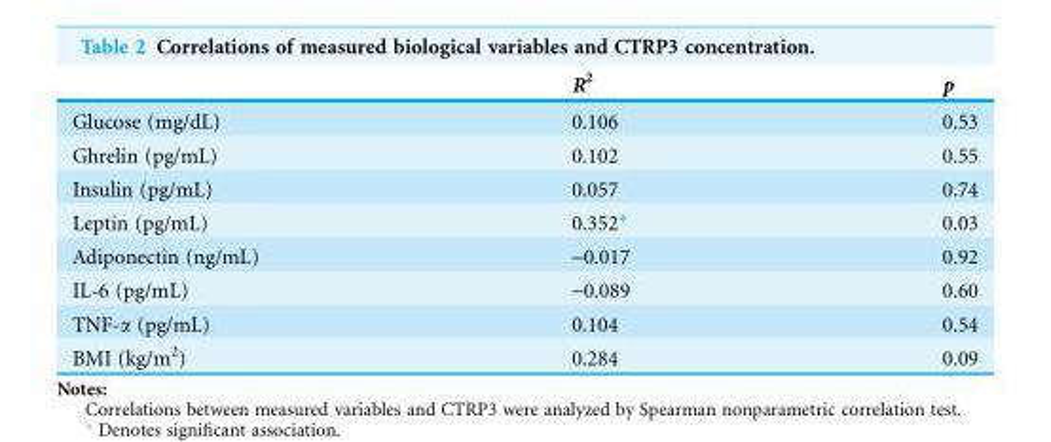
<table><thead><tr><td></td><td>R<sup>2</sup></td><td>p</td></tr></thead><tbody><tr><td>Glucose (mg/dL)</td><td>0.106</td><td>0.53</td></tr><tr><td>Ghrelin (pg/mL)</td><td>0.102</td><td>0.55</td></tr><tr><td>Insulin (pg/mL)</td><td>0.057</td><td>0.74</td></tr><tr><td>Leptin (pg/mL)</td><td>0.352*</td><td>0.03</td></tr><tr><td>Adiponectin (ng/mL)</td><td>-0.017</td><td>0.92</td></tr><tr><td>IL-6 (pg/mL)</td><td>-0.089</td><td>0.60</td></tr><tr><td>TNF-α (pg/mL)</td><td>0.104</td><td>0.54</td></tr><tr><td>BMI (kg/m<sup>2</sup>)</td><td>0.284</td><td>0.09</td></tr></tbody></table>